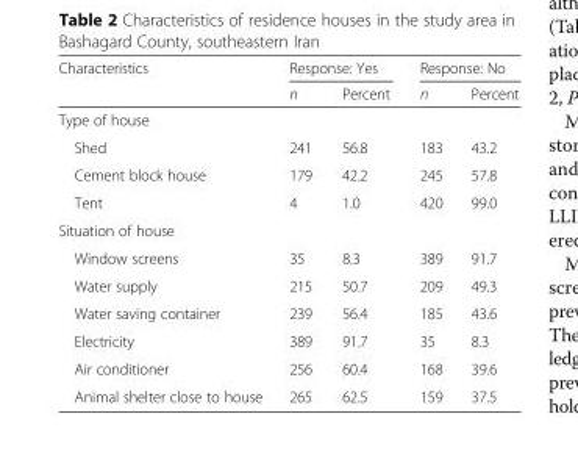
<table><thead><tr><td rowspan="2">Characteristics</td><td colspan="2">Response: Yes</td><td colspan="2">Response: No</td></tr><tr><td>n</td><td>Percent</td><td>n</td><td>Percent</td></tr></thead><tbody><tr><td colspan="5">Type of house</td></tr><tr><td>Shed</td><td>241</td><td>56.8</td><td>183</td><td>43.2</td></tr><tr><td>Cement block house</td><td>179</td><td>42.2</td><td>245</td><td>57.8</td></tr><tr><td>Tent</td><td>4</td><td>1.0</td><td>420</td><td>99.0</td></tr><tr><td colspan="5">Situation of house</td></tr><tr><td>Window screens</td><td>35</td><td>8.3</td><td>389</td><td>91.7</td></tr><tr><td>Water supply</td><td>215</td><td>50.7</td><td>209</td><td>49.3</td></tr><tr><td>Water saving container</td><td>239</td><td>56.4</td><td>185</td><td>43.6</td></tr><tr><td>Electricity</td><td>389</td><td>91.7</td><td>35</td><td>8.3</td></tr><tr><td>Air conditioner</td><td>256</td><td>60.4</td><td>168</td><td>39.6</td></tr><tr><td>Animal shelter close to house</td><td>265</td><td>62.5</td><td>159</td><td>37.5</td></tr></tbody></table>